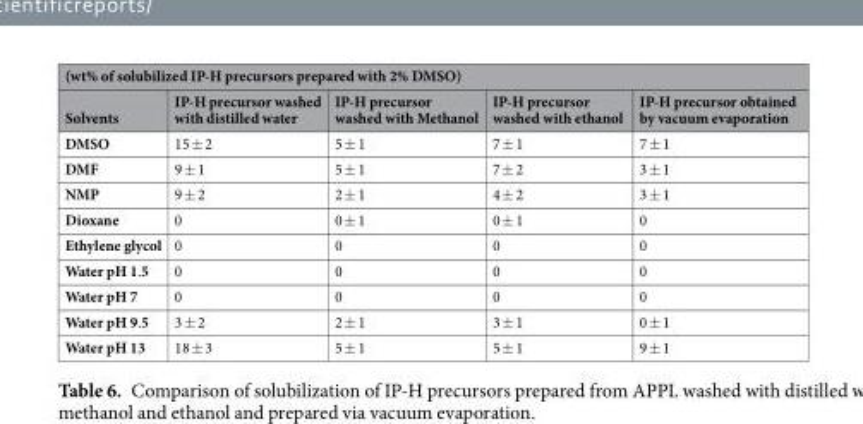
<table><thead><tr><td colspan="5">(wt% of solubilized IP-H precursors prepared with 2% DMSO)</td></tr><tr><td>Solvents</td><td>IP-H precursor washed with distilled water</td><td>IP-H precursor washed with Methanol</td><td>IP-H precursor washed with ethanol</td><td>IP-H precursor obtained by vacuum evaporation</td></tr></thead><tbody><tr><td>DMSO</td><td>15 ± 2</td><td>5 ± 1</td><td>7 ± 1</td><td>7 ± 1</td></tr><tr><td>DMF</td><td>9 ± 1</td><td>5 ± 1</td><td>7 ± 2</td><td>3 ± 1</td></tr><tr><td>NMP</td><td>9 ± 2</td><td>2 ± 1</td><td>4 ± 2</td><td>3 ± 1</td></tr><tr><td>Dioxane</td><td>0</td><td>0 ± 1</td><td>0 ± 1</td><td>0</td></tr><tr><td>Ethylene glycol</td><td>0</td><td>0</td><td>0</td><td>0</td></tr><tr><td>Water pH 1.5</td><td>0</td><td>0</td><td>0</td><td>0</td></tr><tr><td>Water pH 7</td><td>0</td><td>0</td><td>0</td><td>0</td></tr><tr><td>Water pH 9.5</td><td>3 ± 2</td><td>2 ± 1</td><td>3 ± 1</td><td>0 ± 1</td></tr><tr><td>Water pH 13</td><td>18 ± 3</td><td>5 ± 1</td><td>5 ± 1</td><td>9 ± 1</td></tr></tbody></table>